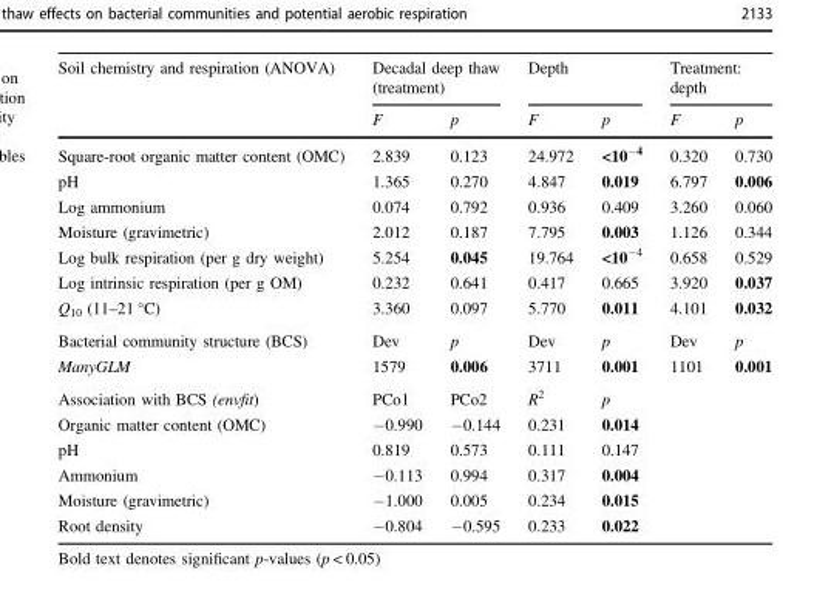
<table><thead><tr><td rowspan="2">Soil chemistry and respiration (ANOVA)</td><td colspan="2">Decadal deep thaw (treatment)</td><td colspan="2">Depth</td><td colspan="2">Treatment: depth</td></tr><tr><td>F</td><td>p</td><td>F</td><td>p</td><td>F</td><td>p</td></tr></thead><tbody><tr><td>Square-root organic matter content (OMC)</td><td>2.839</td><td>0.123</td><td>24.972</td><td>&lt;10<sup>−4</sup></td><td>0.320</td><td>0.730</td></tr><tr><td>pH</td><td>1.365</td><td>0.270</td><td>4.847</td><td>0.019</td><td>6.797</td><td>0.006</td></tr><tr><td>Log ammonium</td><td>0.074</td><td>0.792</td><td>0.936</td><td>0.409</td><td>3.260</td><td>0.060</td></tr><tr><td>Moisture (gravimetric)</td><td>2.012</td><td>0.187</td><td>7.795</td><td>0.003</td><td>1.126</td><td>0.344</td></tr><tr><td>Log bulk respiration (per g dry weight)</td><td>5.254</td><td>0.045</td><td>19.764</td><td>&lt;10<sup>−4</sup></td><td>0.658</td><td>0.529</td></tr><tr><td>Log intrinsic respiration (per g OM)</td><td>0.232</td><td>0.641</td><td>0.417</td><td>0.665</td><td>3.920</td><td>0.037</td></tr><tr><td>Q<sub>10</sub> (11–21 °C)</td><td>3.360</td><td>0.097</td><td>5.770</td><td>0.011</td><td>4.101</td><td>0.032</td></tr><tr><td>Bacterial community structure (BCS)</td><td>Dev</td><td>p</td><td>Dev</td><td>p</td><td>Dev</td><td>p</td></tr><tr><td>ManyGLM</td><td>1579</td><td>0.006</td><td>3711</td><td>0.001</td><td>1101</td><td>0.001</td></tr><tr><td>Association with BCS (envfit)</td><td>PCo1</td><td>PCo2</td><td>R<sup>2</sup></td><td>p</td><td></td><td></td></tr><tr><td>Organic matter content (OMC)</td><td>−0.990</td><td>−0.144</td><td>0.231</td><td>0.014</td><td></td><td></td></tr><tr><td>pH</td><td>0.819</td><td>0.573</td><td>0.111</td><td>0.147</td><td></td><td></td></tr><tr><td>Ammonium</td><td>−0.113</td><td>0.994</td><td>0.317</td><td>0.004</td><td></td><td></td></tr><tr><td>Moisture (gravimetric)</td><td>−1.000</td><td>0.005</td><td>0.234</td><td>0.015</td><td></td><td></td></tr><tr><td>Root density</td><td>−0.804</td><td>−0.595</td><td>0.233</td><td>0.022</td><td></td><td></td></tr></tbody></table>